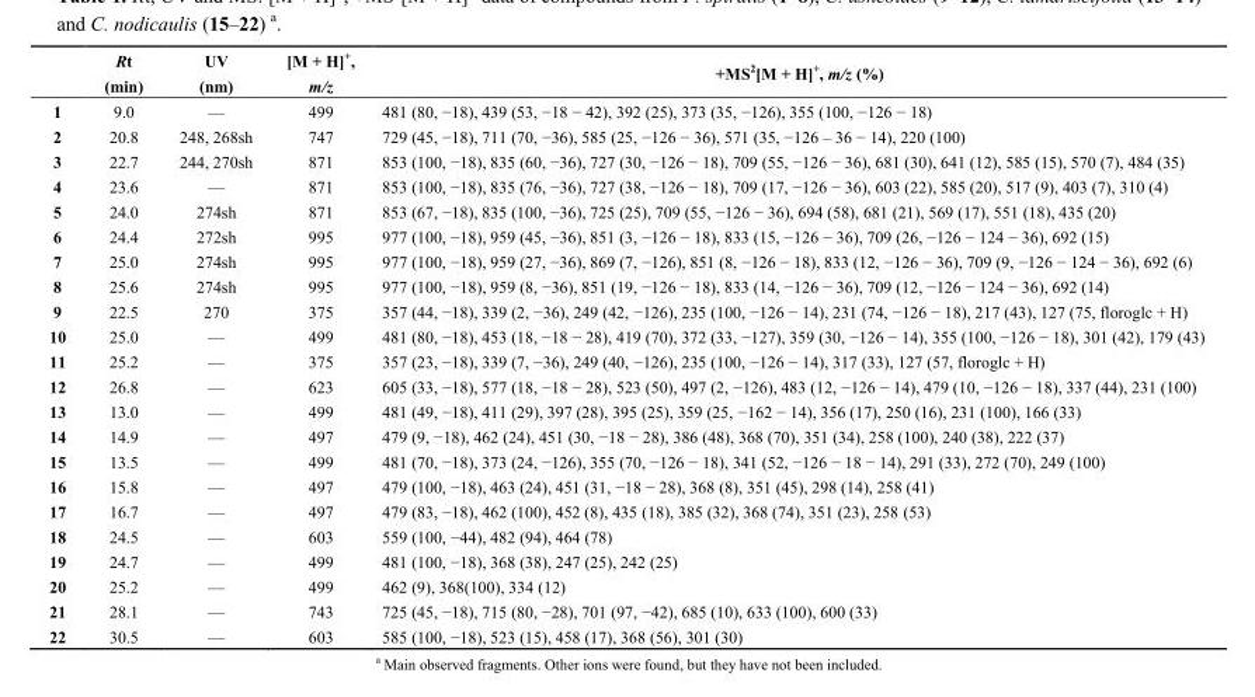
<table><thead><tr><td></td><td>Rt (min)</td><td>UV (nm)</td><td>[M + H]<sup>+</sup>, m/z</td><td>+MS<sup>2</sup>[M + H]<sup>+</sup>, m/z (%)</td></tr></thead><tbody><tr><td>1</td><td>9.0</td><td>—</td><td>499</td><td>481 (80, −18), 439 (53, −18 − 42), 392 (25), 373 (35, −126), 355 (100, −126 − 18)</td></tr><tr><td>2</td><td>20.8</td><td>248, 268sh</td><td>747</td><td>729 (45, −18), 711 (70, −36), 585 (25, −126 − 36), 571 (35, −126 – 36 − 14), 220 (100)</td></tr><tr><td>3</td><td>22.7</td><td>244, 270sh</td><td>871</td><td>853 (100, −18), 835 (60, −36), 727 (30, −126 − 18), 709 (55, −126 − 36), 681 (30), 641 (12), 585 (15), 570 (7), 484 (35)</td></tr><tr><td>4</td><td>23.6</td><td>—</td><td>871</td><td>853 (100, −18), 835 (76, −36), 727 (38, −126 − 18), 709 (17, −126 − 36), 603 (22), 585 (20), 517 (9), 403 (7), 310 (4)</td></tr><tr><td>5</td><td>24.0</td><td>274sh</td><td>871</td><td>853 (67, −18), 835 (100, −36), 725 (25), 709 (55, −126 − 36), 694 (58), 681 (21), 569 (17), 551 (18), 435 (20)</td></tr><tr><td>6</td><td>24.4</td><td>272sh</td><td>995</td><td>977 (100, −18), 959 (45, −36), 851 (3, −126 − 18), 833 (15, −126 − 36), 709 (26, −126 − 124 − 36), 692 (15)</td></tr><tr><td>7</td><td>25.0</td><td>274sh</td><td>995</td><td>977 (100, −18), 959 (27, −36), 869 (7, −126), 851 (8, −126 − 18), 833 (12, −126 − 36), 709 (9, −126 − 124 − 36), 692 (6)</td></tr><tr><td>8</td><td>25.6</td><td>274sh</td><td>995</td><td>977 (100, −18), 959 (8, −36), 851 (19, −126 − 18), 833 (14, −126 − 36), 709 (12, −126 − 124 − 36), 692 (14)</td></tr><tr><td>9</td><td>22.5</td><td>270</td><td>375</td><td>357 (44, −18), 339 (2, −36), 249 (42, −126), 235 (100, −126 − 14), 231 (74, −126 − 18), 217 (43), 127 (75, floroglc + H)</td></tr><tr><td>10</td><td>25.0</td><td>—</td><td>499</td><td>481 (80, −18), 453 (18, −18 − 28), 419 (70), 372 (33, −127), 359 (30, −126 − 14), 355 (100, −126 − 18), 301 (42), 179 (43)</td></tr><tr><td>11</td><td>25.2</td><td>—</td><td>375</td><td>357 (23, −18), 339 (7, −36), 249 (40, −126), 235 (100, −126 − 14), 317 (33), 127 (57, floroglc + H)</td></tr><tr><td>12</td><td>26.8</td><td>—</td><td>623</td><td>605 (33, −18), 577 (18, −18 − 28), 523 (50), 497 (2, −126), 483 (12, −126 − 14), 479 (10, −126 − 18), 337 (44), 231 (100)</td></tr><tr><td>13</td><td>13.0</td><td>—</td><td>499</td><td>481 (49, −18), 411 (29), 397 (28), 395 (25), 359 (25, −162 − 14), 356 (17), 250 (16), 231 (100), 166 (33)</td></tr><tr><td>14</td><td>14.9</td><td>—</td><td>497</td><td>479 (9, −18), 462 (24), 451 (30, −18 − 28), 386 (48), 368 (70), 351 (34), 258 (100), 240 (38), 222 (37)</td></tr><tr><td>15</td><td>13.5</td><td>—</td><td>499</td><td>481 (70, −18), 373 (24, −126), 355 (70, −126 − 18), 341 (52, −126 − 18 − 14), 291 (33), 272 (70), 249 (100)</td></tr><tr><td>16</td><td>15.8</td><td>—</td><td>497</td><td>479 (100, −18), 463 (24), 451 (31, −18 − 28), 368 (8), 351 (45), 298 (14), 258 (41)</td></tr><tr><td>17</td><td>16.7</td><td>—</td><td>497</td><td>479 (83, −18), 462 (100), 452 (8), 435 (18), 385 (32), 368 (74), 351 (23), 258 (53)</td></tr><tr><td>18</td><td>24.5</td><td>—</td><td>603</td><td>559 (100, −44), 482 (94), 464 (78)</td></tr><tr><td>19</td><td>24.7</td><td>—</td><td>499</td><td>481 (100, −18), 368 (38), 247 (25), 242 (25)</td></tr><tr><td>20</td><td>25.2</td><td>—</td><td>499</td><td>462 (9), 368(100), 334 (12)</td></tr><tr><td>21</td><td>28.1</td><td>—</td><td>743</td><td>725 (45, −18), 715 (80, −28), 701 (97, −42), 685 (10), 633 (100), 600 (33)</td></tr><tr><td>22</td><td>30.5</td><td>—</td><td>603</td><td>585 (100, −18), 523 (15), 458 (17), 368 (56), 301 (30)</td></tr></tbody></table>